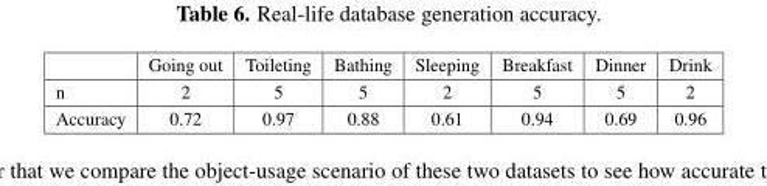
<table><thead><tr><td></td><td>Going out</td><td>Toileting</td><td>Bathing</td><td>Sleeping</td><td>Breakfast</td><td>Dinner</td><td>Drink</td></tr></thead><tbody><tr><td>n</td><td>2</td><td>5</td><td>5</td><td>2</td><td>5</td><td>5</td><td>2</td></tr><tr><td>Accuracy</td><td>0.72</td><td>0.97</td><td>0.88</td><td>0.61</td><td>0.94</td><td>0.69</td><td>0.96</td></tr></tbody></table>